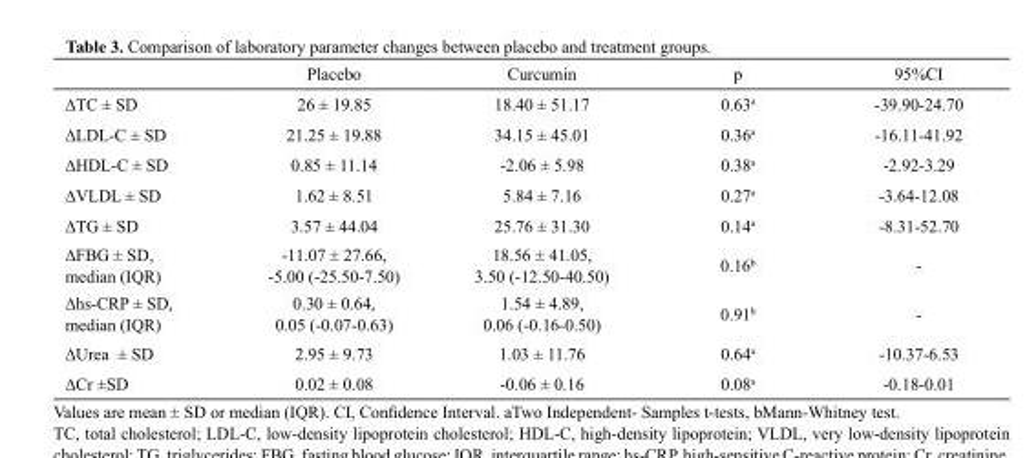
<table><thead><tr><td></td><td>Placebo</td><td>Curcumin</td><td>p</td><td>95%CI</td></tr></thead><tbody><tr><td>∆TC ± SD</td><td>26 ± 19.85</td><td>18.40 ± 51.17</td><td>0.63<sup>a</sup></td><td>-39.90-24.70</td></tr><tr><td>∆LDL-C ± SD</td><td>21.25 ± 19.88</td><td>34.15 ± 45.01</td><td>0.36<sup>a</sup></td><td>-16.11-41.92</td></tr><tr><td>∆HDL-C ± SD</td><td>0.85 ± 11.14</td><td>-2.06 ± 5.98</td><td>0.38<sup>a</sup></td><td>-2.92-3.29</td></tr><tr><td>∆VLDL ± SD</td><td>1.62 ± 8.51</td><td>5.84 ± 7.16</td><td>0.27<sup>a</sup></td><td>-3.64-12.08</td></tr><tr><td>∆TG ± SD</td><td>3.57 ± 44.04</td><td>25.76 ± 31.30</td><td>0.14<sup>a</sup></td><td>-8.31-52.70</td></tr><tr><td>∆FBG ± SD, median (IQR)</td><td>-11.07 ± 27.66, -5.00 (-25.50-7.50)</td><td>18.56 ± 41.05, 3.50 (-12.50-40.50)</td><td>0.16<sup>b</sup></td><td>-</td></tr><tr><td>∆hs-CRP ± SD, median (IQR)</td><td>0.30 ± 0.64, 0.05 (-0.07-0.63)</td><td>1.54 ± 4.89, 0.06 (-0.16-0.50)</td><td>0.91<sup>b</sup></td><td>-</td></tr><tr><td>∆Urea ± SD</td><td>2.95 ± 9.73</td><td>1.03 ± 11.76</td><td>0.64<sup>a</sup></td><td>-10.37-6.53</td></tr><tr><td>∆Cr ±SD</td><td>0.02 ± 0.08</td><td>-0.06 ± 0.16</td><td>0.08<sup>a</sup></td><td>-0.18-0.01</td></tr></tbody></table>